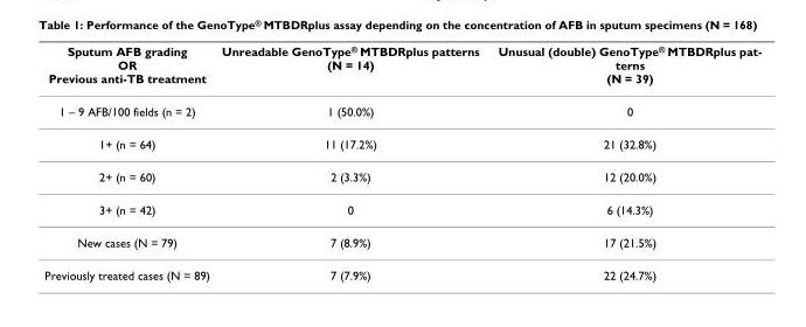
<table><thead><tr><td>Sputum AFB grading OR Previous anti-TB treatment</td><td>Unreadable GenoType<sup>®</sup> MTBDRplus patterns (N = 14)</td><td>Unusual (double) GenoType® MTBDRplus pat- terns (N = 39)</td></tr></thead><tbody><tr><td>1 – 9 AFB/100 fields (n = 2)</td><td>1 (50.0%)</td><td>0</td></tr><tr><td>1+ (n = 64)</td><td>11 (17.2%)</td><td>21 (32.8%)</td></tr><tr><td>2+ (n = 60)</td><td>2 (3.3%)</td><td>12 (20.0%)</td></tr><tr><td>3+ (n = 42)</td><td>0</td><td>6 (14.3%)</td></tr><tr><td>New cases (N = 79)</td><td>7 (8.9%)</td><td>17 (21.5%)</td></tr><tr><td>Previously treated cases (N = 89)</td><td>7 (7.9%)</td><td>22 (24.7%)</td></tr></tbody></table>